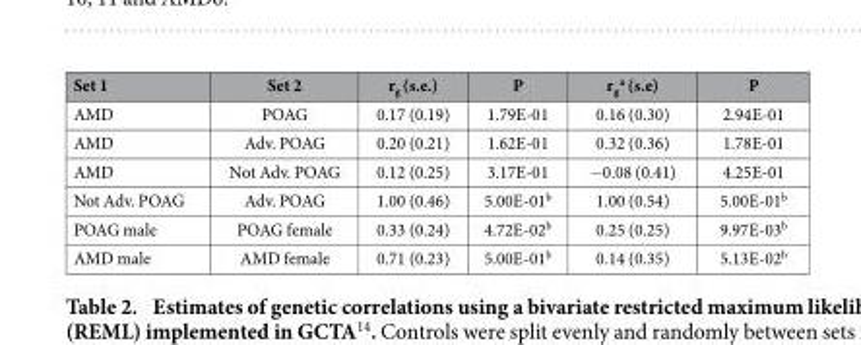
<table><thead><tr><td>Set 1</td><td>Set 2</td><td>r<sub>g</sub> (s.e.)</td><td>P</td><td>r<sub>g</sub> <sup>a</sup> (s.e)</td><td>P</td></tr></thead><tbody><tr><td>AMD</td><td>POAG</td><td>0.17 (0.19)</td><td>1.79E-01</td><td>0.16 (0.30)</td><td>2.94E-01</td></tr><tr><td>AMD</td><td>Adv. POAG</td><td>0.20 (0.21)</td><td>1.62E-01</td><td>0.32 (0.36)</td><td>1.78E-01</td></tr><tr><td>AMD</td><td>Not Adv. POAG</td><td>0.12 (0.25)</td><td>3.17E-01</td><td>− 0.08 (0.41)</td><td>4.25E-01</td></tr><tr><td>Not Adv. POAG</td><td>Adv. POAG</td><td>1.00 (0.46)</td><td>5.00E-01<sup>b</sup></td><td>1.00 (0.54)</td><td>5.00E-01<sup>b</sup></td></tr><tr><td>POAG male</td><td>POAG female</td><td>0.33 (0.24)</td><td>4.72E-02<sup>b</sup></td><td>0.25 (0.25)</td><td>9.97E-03<sup>b</sup></td></tr><tr><td>AMD male</td><td>AMD female</td><td>0.71 (0.23)</td><td>5.00E-01<sup>b</sup></td><td>0.14 (0.35)</td><td>5.13E-02<sup>b</sup></td></tr></tbody></table>